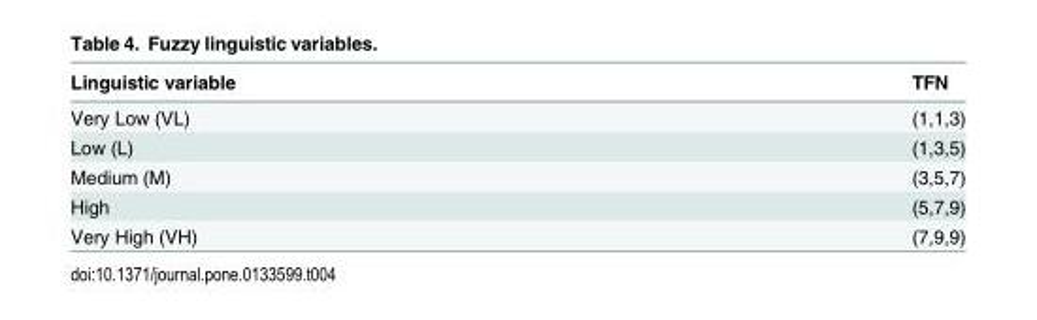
<table><thead><tr><td>Linguistic variable</td><td>TFN</td></tr></thead><tbody><tr><td>Very Low (VL)</td><td>(1,1,3)</td></tr><tr><td>Low (L)</td><td>(1,3,5)</td></tr><tr><td>Medium (M)</td><td>(3,5,7)</td></tr><tr><td>High</td><td>(5,7,9)</td></tr><tr><td>Very High (VH)</td><td>(7,9,9)</td></tr></tbody></table>